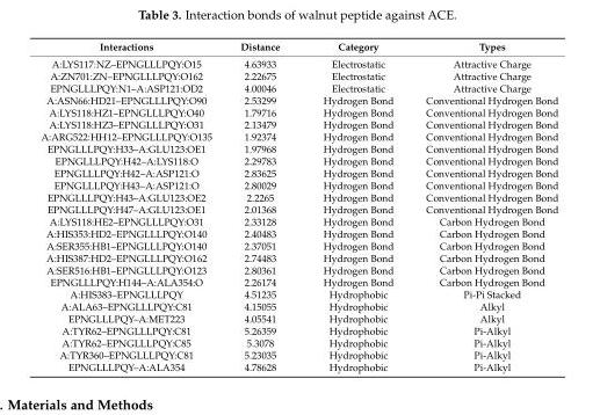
<table><thead><tr><td>Interactions</td><td>Distance</td><td>Category</td><td>Types</td></tr></thead><tbody><tr><td>A:LYS117:NZ–EPNGLLLPQY:O15</td><td>4.63933</td><td>Electrostatic</td><td>Attractive Charge</td></tr><tr><td>A:ZN701:ZN–EPNGLLLPQY:O162</td><td>2.22675</td><td>Electrostatic</td><td>Attractive Charge</td></tr><tr><td>EPNGLLLPQY:N1–A:ASP121:OD2</td><td>4.00046</td><td>Electrostatic</td><td>Attractive Charge</td></tr><tr><td>A:ASN66:HD21–EPNGLLLPQY:O90</td><td>2.53299</td><td>Hydrogen Bond</td><td>Conventional Hydrogen Bond</td></tr><tr><td>A:LYS118:HZ1–EPNGLLLPQY:O40</td><td>1.79716</td><td>Hydrogen Bond</td><td>Conventional Hydrogen Bond</td></tr><tr><td>A:LYS118:HZ3–EPNGLLLPQY:O31</td><td>2.13479</td><td>Hydrogen Bond</td><td>Conventional Hydrogen Bond</td></tr><tr><td>A:ARG522:HH12–EPNGLLLPQY:O135</td><td>1.92374</td><td>Hydrogen Bond</td><td>Conventional Hydrogen Bond</td></tr><tr><td>EPNGLLLPQY:H33–A:GLU123:OE1</td><td>1.97968</td><td>Hydrogen Bond</td><td>Conventional Hydrogen Bond</td></tr><tr><td>EPNGLLLPQY:H42–A:LYS118:O</td><td>2.29783</td><td>Hydrogen Bond</td><td>Conventional Hydrogen Bond</td></tr><tr><td>EPNGLLLPQY:H42–A:ASP121:O</td><td>2.83625</td><td>Hydrogen Bond</td><td>Conventional Hydrogen Bond</td></tr><tr><td>EPNGLLLPQY:H43–A:ASP121:O</td><td>2.80029</td><td>Hydrogen Bond</td><td>Conventional Hydrogen Bond</td></tr><tr><td>EPNGLLLPQY:H43–A:GLU123:OE2</td><td>2.2265</td><td>Hydrogen Bond</td><td>Conventional Hydrogen Bond</td></tr><tr><td>EPNGLLLPQY:H47–A:GLU123:OE1</td><td>2.01368</td><td>Hydrogen Bond</td><td>Conventional Hydrogen Bond</td></tr><tr><td>A:LYS118:HE2–EPNGLLLPQY:O31</td><td>2.33128</td><td>Hydrogen Bond</td><td>Carbon Hydrogen Bond</td></tr><tr><td>A:HIS353:HD2–EPNGLLLPQY:O140</td><td>2.40483</td><td>Hydrogen Bond</td><td>Carbon Hydrogen Bond</td></tr><tr><td>A:SER355:HB1–EPNGLLLPQY:O140</td><td>2.37051</td><td>Hydrogen Bond</td><td>Carbon Hydrogen Bond</td></tr><tr><td>A:HIS387:HD2–EPNGLLLPQY:O162</td><td>2.74483</td><td>Hydrogen Bond</td><td>Carbon Hydrogen Bond</td></tr><tr><td>A:SER516:HB1–EPNGLLLPQY:O123</td><td>2.80361</td><td>Hydrogen Bond</td><td>Carbon Hydrogen Bond</td></tr><tr><td>EPNGLLLPQY:H144–A:ALA354:O</td><td>2.26174</td><td>Hydrogen Bond</td><td>Carbon Hydrogen Bond</td></tr><tr><td>A:HIS383–EPNGLLLPQY</td><td>4.51235</td><td>Hydrophobic</td><td>Pi-Pi Stacked</td></tr><tr><td>A:ALA63–EPNGLLLPQY:C81</td><td>4.15055</td><td>Hydrophobic</td><td>Alkyl</td></tr><tr><td>EPNGLLLPQY–A:MET223</td><td>4.05541</td><td>Hydrophobic</td><td>Alkyl</td></tr><tr><td>A:TYR62–EPNGLLLPQY:C81</td><td>5.26359</td><td>Hydrophobic</td><td>Pi-Alkyl</td></tr><tr><td>A:TYR62–EPNGLLLPQY:C85</td><td>5.3078</td><td>Hydrophobic</td><td>Pi-Alkyl</td></tr><tr><td>A:TYR360–EPNGLLLPQY:C81</td><td>5.23035</td><td>Hydrophobic</td><td>Pi-Alkyl</td></tr><tr><td>EPNGLLLPQY–A:ALA354</td><td>4.78628</td><td>Hydrophobic</td><td>Pi-Alkyl</td></tr></tbody></table>